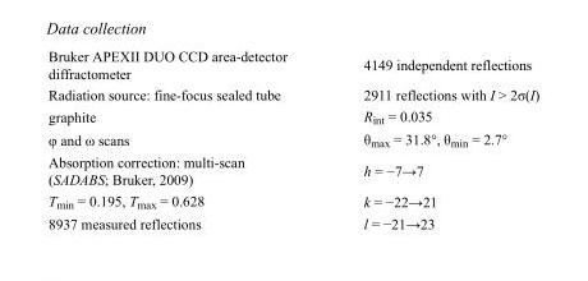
<table><tbody><tr><td>Bruker APEXII DUO CCD area-detector diffractometer</td><td>4149 independent reflections</td></tr><tr><td>Radiation source: fine-focus sealed tube</td><td>2911 reflections with I &gt; 2σ(I)</td></tr><tr><td>graphite</td><td>R<sub>int</sub> = 0.035</td></tr><tr><td>φ and ω scans</td><td>θ<sub>max</sub> = 31.8°, θ<sub>min</sub> = 2.7°</td></tr><tr><td>Absorption correction: multi-scan (SADABS; Bruker, 2009)</td><td>h = −7→7</td></tr><tr><td>T<sub>min</sub> = 0.195, T<sub>max</sub> = 0.628</td><td>k = −22→21</td></tr><tr><td>8937 measured reflections</td><td>l = −21→23</td></tr></tbody></table>